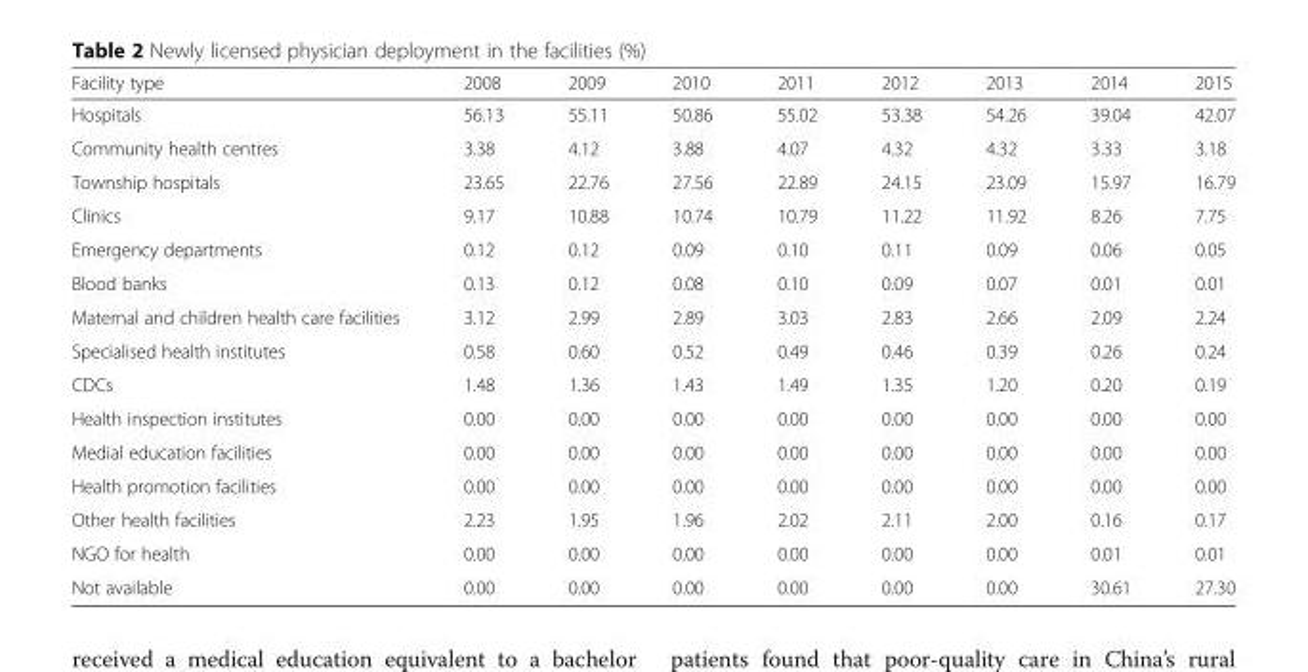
<table><thead><tr><td>Facility type</td><td>2008</td><td>2009</td><td>2010</td><td>2011</td><td>2012</td><td>2013</td><td>2014</td><td>2015</td></tr></thead><tbody><tr><td>Hospitals</td><td>56.13</td><td>55.11</td><td>50.86</td><td>55.02</td><td>53.38</td><td>54.26</td><td>39.04</td><td>42.07</td></tr><tr><td>Community health centres</td><td>3.38</td><td>4.12</td><td>3.88</td><td>4.07</td><td>4.32</td><td>4.32</td><td>3.33</td><td>3.18</td></tr><tr><td>Township hospitals</td><td>23.65</td><td>22.76</td><td>27.56</td><td>22.89</td><td>24.15</td><td>23.09</td><td>15.97</td><td>16.79</td></tr><tr><td>Clinics</td><td>9.17</td><td>10.88</td><td>10.74</td><td>10.79</td><td>11.22</td><td>11.92</td><td>8.26</td><td>7.75</td></tr><tr><td>Emergency departments</td><td>0.12</td><td>0.12</td><td>0.09</td><td>0.10</td><td>0.11</td><td>0.09</td><td>0.06</td><td>0.05</td></tr><tr><td>Blood banks</td><td>0.13</td><td>0.12</td><td>0.08</td><td>0.10</td><td>0.09</td><td>0.07</td><td>0.01</td><td>0.01</td></tr><tr><td>Maternal and children health care facilities</td><td>3.12</td><td>2.99</td><td>2.89</td><td>3.03</td><td>2.83</td><td>2.66</td><td>2.09</td><td>2.24</td></tr><tr><td>Specialised health institutes</td><td>0.58</td><td>0.60</td><td>0.52</td><td>0.49</td><td>0.46</td><td>0.39</td><td>0.26</td><td>0.24</td></tr><tr><td>CDCs</td><td>1.48</td><td>1.36</td><td>1.43</td><td>1.49</td><td>1.35</td><td>1.20</td><td>0.20</td><td>0.19</td></tr><tr><td>Health inspection institutes</td><td>0.00</td><td>0.00</td><td>0.00</td><td>0.00</td><td>0.00</td><td>0.00</td><td>0.00</td><td>0.00</td></tr><tr><td>Medial education facilities</td><td>0.00</td><td>0.00</td><td>0.00</td><td>0.00</td><td>0.00</td><td>0.00</td><td>0.00</td><td>0.00</td></tr><tr><td>Health promotion facilities</td><td>0.00</td><td>0.00</td><td>0.00</td><td>0.00</td><td>0.00</td><td>0.00</td><td>0.00</td><td>0.00</td></tr><tr><td>Other health facilities</td><td>2.23</td><td>1.95</td><td>1.96</td><td>2.02</td><td>2.11</td><td>2.00</td><td>0.16</td><td>0.17</td></tr><tr><td>NGO for health</td><td>0.00</td><td>0.00</td><td>0.00</td><td>0.00</td><td>0.00</td><td>0.00</td><td>0.01</td><td>0.01</td></tr><tr><td>Not available</td><td>0.00</td><td>0.00</td><td>0.00</td><td>0.00</td><td>0.00</td><td>0.00</td><td>30.61</td><td>27.30</td></tr></tbody></table>